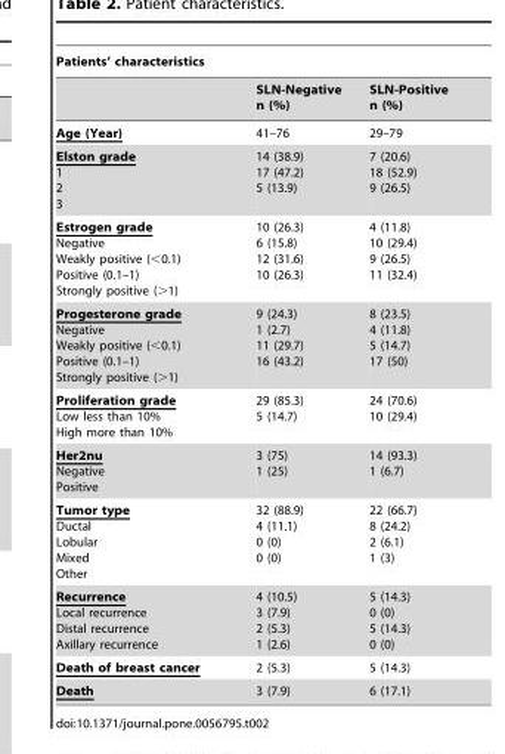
<table><thead><tr><td colspan="3">Patients’ characteristics</td></tr><tr><td></td><td>SLN-Negative n (%)</td><td>SLN-Positive n (%)</td></tr></thead><tbody><tr><td>Age (Year)</td><td>41–76</td><td>29–79</td></tr><tr><td>Elston grade 1 2 3</td><td>14 (38.9) 17 (47.2) 5 (13.9)</td><td>7 (20.6) 18 (52.9) 9 (26.5)</td></tr><tr><td>Estrogen grade Negative Weakly positive (&lt;0.1) Positive (0.1–1) Strongly positive (&gt;1)</td><td>10 (26.3) 6 (15.8) 12 (31.6) 10 (26.3)</td><td>4 (11.8) 10 (29.4) 9 (26.5) 11 (32.4)</td></tr><tr><td>Progesterone grade Negative Weakly positive (&lt;0.1) Positive (0.1–1) Strongly positive (&gt;1)</td><td>9 (24.3) 1 (2.7) 11 (29.7) 16 (43.2)</td><td>8 (23.5) 4 (11.8) 5 (14.7) 17 (50)</td></tr><tr><td>Proliferation grade Low less than 10% High more than 10%</td><td>29 (85.3) 5 (14.7)</td><td>24 (70.6) 10 (29.4)</td></tr><tr><td>Her2nu Negative Positive</td><td>3 (75) 1 (25)</td><td>14 (93.3) 1 (6.7)</td></tr><tr><td>Tumor type Ductal Lobular Mixed Other</td><td>32 (88.9) 4 (11.1) 0 (0) 0 (0)</td><td>22 (66.7) 8 (24.2) 2 (6.1) 1 (3)</td></tr><tr><td>Recurrence Local recurrence Distal recurrence Axillary recurrence</td><td>4 (10.5) 3 (7.9) 2 (5.3) 1 (2.6)</td><td>5 (14.3) 0 (0) 5 (14.3) 0 (0)</td></tr><tr><td>Death of breast cancer</td><td>2 (5.3)</td><td>5 (14.3)</td></tr><tr><td>Death</td><td>3 (7.9)</td><td>6 (17.1)</td></tr></tbody></table>